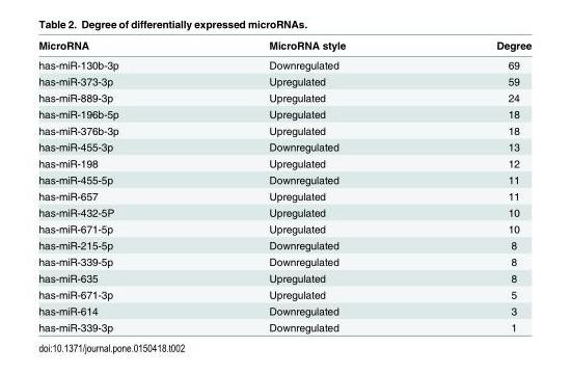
<table><thead><tr><td>MicroRNA</td><td>MicroRNA style</td><td>Degree</td></tr></thead><tbody><tr><td>has-miR-130b-3p</td><td>Downregulated</td><td>69</td></tr><tr><td>has-miR-373-3p</td><td>Upregulated</td><td>59</td></tr><tr><td>has-miR-889-3p</td><td>Upregulated</td><td>24</td></tr><tr><td>has-miR-196b-5p</td><td>Upregulated</td><td>18</td></tr><tr><td>has-miR-376b-3p</td><td>Upregulated</td><td>18</td></tr><tr><td>has-miR-455-3p</td><td>Downregulated</td><td>13</td></tr><tr><td>has-miR-198</td><td>Upregulated</td><td>12</td></tr><tr><td>has-miR-455-5p</td><td>Downregulated</td><td>11</td></tr><tr><td>has-miR-657</td><td>Upregulated</td><td>11</td></tr><tr><td>has-miR-432-5P</td><td>Upregulated</td><td>10</td></tr><tr><td>has-miR-671-5p</td><td>Upregulated</td><td>10</td></tr><tr><td>has-miR-215-5p</td><td>Downregulated</td><td>8</td></tr><tr><td>has-miR-339-5p</td><td>Downregulated</td><td>8</td></tr><tr><td>has-miR-635</td><td>Upregulated</td><td>8</td></tr><tr><td>has-miR-671-3p</td><td>Upregulated</td><td>5</td></tr><tr><td>has-miR-614</td><td>Downregulated</td><td>3</td></tr><tr><td>has-miR-339-3p</td><td>Downregulated</td><td>1</td></tr></tbody></table>